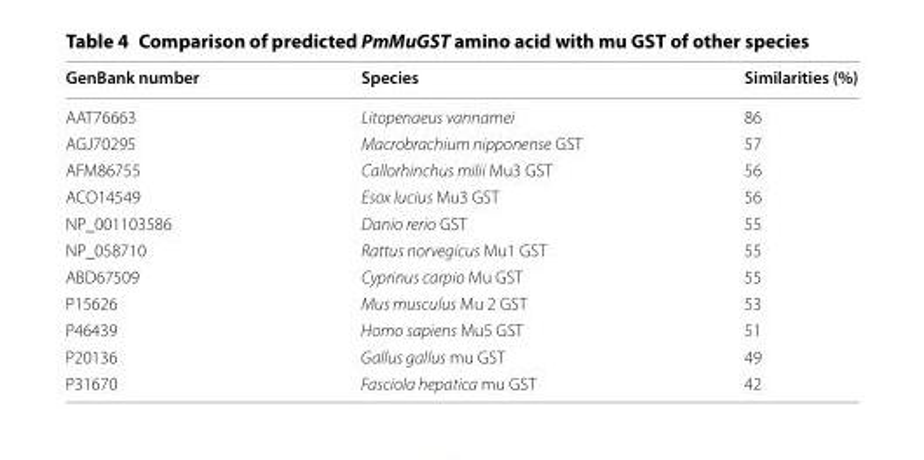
<table><thead><tr><td>GenBank number</td><td>Species</td><td>Similarities (%)</td></tr></thead><tbody><tr><td>AAT76663</td><td>Litopenaeus vannamei</td><td>86</td></tr><tr><td>AGJ70295</td><td>Macrobrachium nipponense GST</td><td>57</td></tr><tr><td>AFM86755</td><td>Callorhinchus milii Mu3 GST</td><td>56</td></tr><tr><td>ACO14549</td><td>Esox lucius Mu3 GST</td><td>56</td></tr><tr><td>NP_001103586</td><td>Danio rerio GST</td><td>55</td></tr><tr><td>NP_058710</td><td>Rattus norvegicus Mu1 GST</td><td>55</td></tr><tr><td>ABD67509</td><td>Cyprinus carpio Mu GST</td><td>55</td></tr><tr><td>P15626</td><td>Mus musculus Mu 2 GST</td><td>53</td></tr><tr><td>P46439</td><td>Homo sapiens Mu5 GST</td><td>51</td></tr><tr><td>P20136</td><td>Gallus gallus mu GST</td><td>49</td></tr><tr><td>P31670</td><td>Fasciola hepatica mu GST</td><td>42</td></tr></tbody></table>